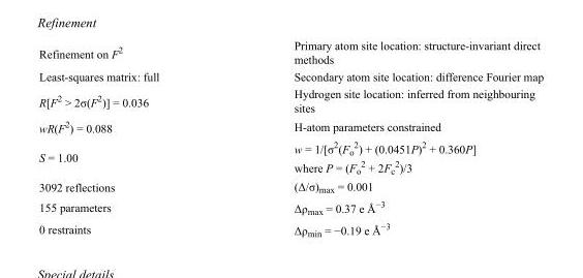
<table><tbody><tr><td>Refinement on F<sup>2</sup></td><td>Primary atom site location: structure-invariant direct methods</td></tr><tr><td>Least-squares matrix: full</td><td>Secondary atom site location: difference Fourier map</td></tr><tr><td>R[F<sup>2</sup> &gt; 2σ(F<sup>2</sup>)] = 0.036</td><td>Hydrogen site location: inferred from neighbouring sites</td></tr><tr><td>wR(F<sup>2</sup>) = 0.088</td><td>H-atom parameters constrained</td></tr><tr><td>S = 1.00</td><td>w = 1/[σ<sup>2</sup>(F<sub>o</sub> <sup>2</sup>) + (0.0451P)<sup>2</sup> + 0.360P] where P = (F<sub>o</sub> <sup>2</sup> + 2F<sub>c</sub> <sup>2</sup>)/3</td></tr><tr><td>3092 reflections</td><td>(Δ/σ)<sub>max</sub> = 0.001</td></tr><tr><td>155 parameters</td><td>Δρ<sub>max</sub> = 0.37 e Å<sup>−3</sup></td></tr><tr><td>0 restraints</td><td>Δρ<sub>min</sub> = −0.19 e Å<sup>−3</sup></td></tr></tbody></table>